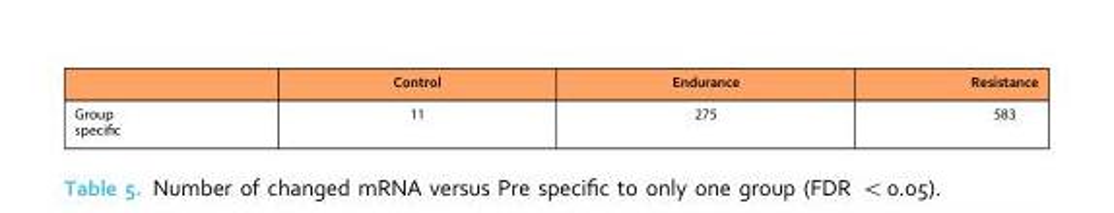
<table><thead><tr><td></td><td>Control</td><td>Endurance</td><td>Resistance</td></tr></thead><tbody><tr><td>Group specific</td><td>11</td><td>275</td><td>583</td></tr></tbody></table>